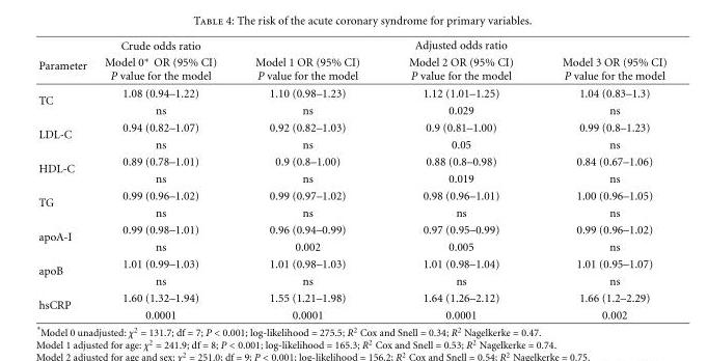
<table><thead><tr><td rowspan="2">Parameter</td><td rowspan="2">Crude odds ratio Model 0∗ OR (95% CI) P value for the model</td><td colspan="3">Adjusted odds ratio</td></tr><tr><td>Model 1 OR (95% CI) P value for the model</td><td>Model 2 OR (95% CI) P value for the model</td><td>Model 3 OR (95% CI) P value for the model</td></tr></thead><tbody><tr><td rowspan="2">TC</td><td>1.08 (0.94–1.22)</td><td>1.10 (0.98–1.23)</td><td>1.12 (1.01–1.25)</td><td>1.04 (0.83–1.3)</td></tr><tr><td>ns</td><td>ns</td><td>0.029</td><td>ns</td></tr><tr><td rowspan="2">LDL-C</td><td>0.94 (0.82–1.07)</td><td>0.92 (0.82–1.03)</td><td>0.9 (0.81–1.00)</td><td>0.99 (0.8–1.23)</td></tr><tr><td>ns</td><td>ns</td><td>0.05</td><td>ns</td></tr><tr><td rowspan="2">HDL-C</td><td>0.89 (0.78–1.01)</td><td>0.9 (0.8–1.00)</td><td>0.88 (0.8–0.98)</td><td>0.84 (0.67–1.06)</td></tr><tr><td>ns</td><td>ns</td><td>0.019</td><td>ns</td></tr><tr><td rowspan="2">TG</td><td>0.99 (0.96–1.02)</td><td>0.99 (0.97–1.02)</td><td>0.98 (0.96–1.01)</td><td>1.00 (0.96–1.05)</td></tr><tr><td>ns</td><td>ns</td><td>ns</td><td>ns</td></tr><tr><td rowspan="2">apoA-I</td><td>0.99 (0.98–1.01)</td><td>0.96 (0.94–0.99)</td><td>0.97 (0.95–0.99)</td><td>0.99 (0.96–1.02)</td></tr><tr><td>ns</td><td>0.002</td><td>0.005</td><td>ns</td></tr><tr><td rowspan="2">apoB</td><td>1.01 (0.99–1.03)</td><td>1.01 (0.98–1.03)</td><td>1.01 (0.98–1.04)</td><td>1.01 (0.95–1.07)</td></tr><tr><td>ns</td><td>ns</td><td>ns</td><td>ns</td></tr><tr><td rowspan="2">hsCRP</td><td>1.60 (1.32–1.94)</td><td>1.55 (1.21–1.98)</td><td>1.64 (1.26–2.12)</td><td>1.66 (1.2–2.29)</td></tr><tr><td>0.0001</td><td>0.0001</td><td>0.0001</td><td>0.002</td></tr></tbody></table>